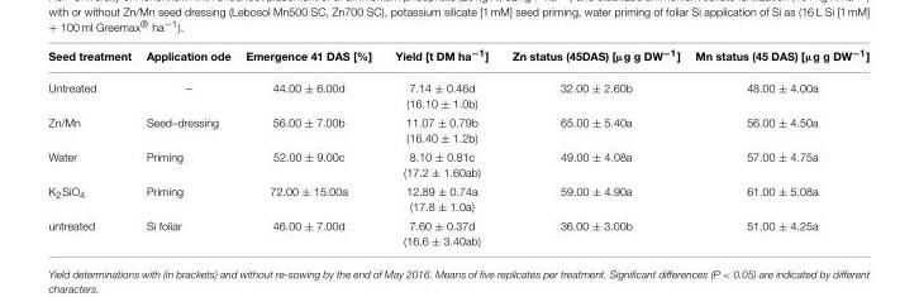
<table><thead><tr><td>Seed treatment</td><td>Application ode</td><td>Emergence 41 DAS [%]</td><td>Yield [t DM ha<sup>−1</sup>]</td><td>Zn status (45DAS) [µg g DW<sup>−1</sup>]</td><td>Mn status (45 DAS) [µg g DW<sup>−1</sup>]</td></tr></thead><tbody><tr><td>Untreated</td><td>–</td><td>44.00 ± 6.00d</td><td>7.14 ± 0.46d (16.10 ± 1.0b)</td><td>32.00 ± 2.60b</td><td>48.00 ± 4.00a</td></tr><tr><td>Zn/Mn</td><td>Seed–dressing</td><td>56.00 ± 7.00b</td><td>11.07 ± 0.79b (16.40 ± 1.2b)</td><td>65.00 ± 5.40a</td><td>56.00 ± 4.50a</td></tr><tr><td>Water</td><td>Priming</td><td>52.00 ± 9.00c</td><td>8.10 ± 0.81c (17.2 ± 1.60ab)</td><td>49.00 ± 4.08a</td><td>57.00 ± 4.75a</td></tr><tr><td>K<sub>2</sub>SiO<sub>4</sub></td><td>Priming</td><td>72.00 ± 15.00a</td><td>12.89 ± 0.74a (17.8 ± 1.0a)</td><td>59.00 ± 4.90a</td><td>61.00 ± 5.08a</td></tr><tr><td>untreated</td><td>Si foliar</td><td>46.00 ± 7.00d</td><td>7.60 ± 0.37d (16.6 ± 3.40ab)</td><td>36.00 ± 3.00b</td><td>51.00 ± 4.25a</td></tr></tbody></table>